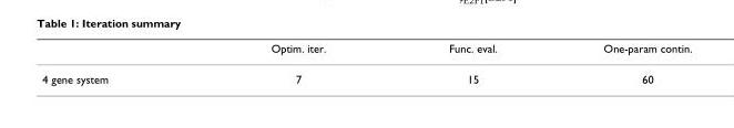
<table><thead><tr><td></td><td>Optim. iter.</td><td>Func. eval.</td><td>One-param contin.</td></tr></thead><tbody><tr><td>4 gene system</td><td>7</td><td>15</td><td>60</td></tr></tbody></table>